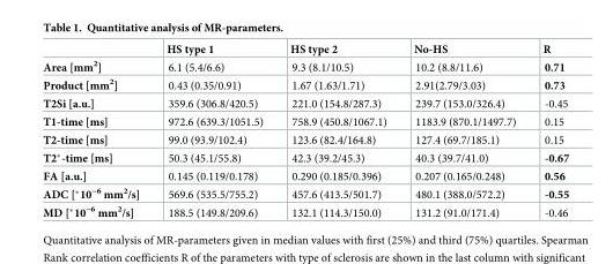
<table><thead><tr><td></td><td>HS type 1</td><td>HS type 2</td><td>No-HS</td><td>R</td></tr></thead><tbody><tr><td>Area [mm<sup>2</sup>]</td><td>6.1 (5.4/6.6)</td><td>9.3 (8.1/10.5)</td><td>10.2 (8.8/11.6)</td><td>0.71</td></tr><tr><td>Product [mm<sup>2</sup>]</td><td>0.43 (0.35/0.91)</td><td>1.67 (1.63/1.71)</td><td>2.91(2.79/3.03)</td><td>0.73</td></tr><tr><td>T2Si [a.u.]</td><td>359.6 (306.8/420.5)</td><td>221.0 (154.8/287.3)</td><td>239.7 (153.0/326.4)</td><td>-0.45</td></tr><tr><td>T1-time [ms]</td><td>972.6 (639.3/1051.5)</td><td>758.9 (450.8/1067.1)</td><td>1183.9 (870.1/1497.7)</td><td>0.15</td></tr><tr><td>T2-time [ms]</td><td>99.0 (93.9/102.4)</td><td>123.6 (82.4/164.8)</td><td>127.4 (69.7/185.1)</td><td>0.15</td></tr><tr><td>T2*-time [ms]</td><td>50.3 (45.1/55.8)</td><td>42.3 (39.2/45.3)</td><td>40.3 (39.7/41.0)</td><td>-0.67</td></tr><tr><td>FA [a.u.]</td><td>0.145 (0.119/0.178)</td><td>0.290 (0.185/0.396)</td><td>0.207 (0.165/0.248)</td><td>0.56</td></tr><tr><td>ADC [*10<sup>−6</sup> mm<sup>2</sup>/s]</td><td>569.6 (535.5/755.2)</td><td>457.6 (413.5/501.7)</td><td>480.1 (388.0/572.2)</td><td>-0.55</td></tr><tr><td>MD [*10<sup>−6</sup> mm<sup>2</sup>/s]</td><td>188.5 (149.8/209.6)</td><td>132.1 (114.3/150.0)</td><td>131.2 (91.0/171.4)</td><td>-0.46</td></tr></tbody></table>